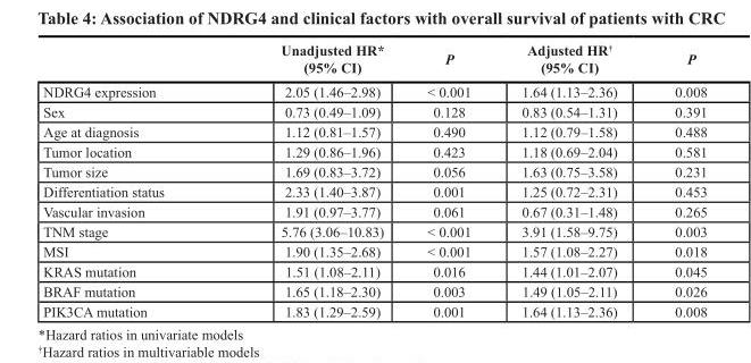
<table><thead><tr><td></td><td>Unadjusted HR* (95% CI)</td><td>P</td><td>Adjusted HR<sup>†</sup> (95% CI)</td><td>P</td></tr></thead><tbody><tr><td>NDRG4 expression</td><td>2.05 (1.46–2.98)</td><td>&lt; 0.001</td><td>1.64 (1.13–2.36)</td><td>0.008</td></tr><tr><td>Sex</td><td>0.73 (0.49–1.09)</td><td>0.128</td><td>0.83 (0.54–1.31)</td><td>0.391</td></tr><tr><td>Age at diagnosis</td><td>1.12 (0.81–1.57)</td><td>0.490</td><td>1.12 (0.79–1.58)</td><td>0.488</td></tr><tr><td>Tumor location</td><td>1.29 (0.86–1.96)</td><td>0.423</td><td>1.18 (0.69–2.04)</td><td>0.581</td></tr><tr><td>Tumor size</td><td>1.69 (0.83–3.72)</td><td>0.056</td><td>1.63 (0.75–3.58)</td><td>0.231</td></tr><tr><td>Differentiation status</td><td>2.33 (1.40–3.87)</td><td>0.001</td><td>1.25 (0.72–2.31)</td><td>0.453</td></tr><tr><td>Vascular invasion</td><td>1.91 (0.97–3.77)</td><td>0.061</td><td>0.67 (0.31–1.48)</td><td>0.265</td></tr><tr><td>TNM stage</td><td>5.76 (3.06–10.83)</td><td>&lt; 0.001</td><td>3.91 (1.58–9.75)</td><td>0.003</td></tr><tr><td>MSI</td><td>1.90 (1.35–2.68)</td><td>&lt; 0.001</td><td>1.57 (1.08–2.27)</td><td>0.018</td></tr><tr><td>KRAS mutation</td><td>1.51 (1.08–2.11)</td><td>0.016</td><td>1.44 (1.01–2.07)</td><td>0.045</td></tr><tr><td>BRAF mutation</td><td>1.65 (1.18–2.30)</td><td>0.003</td><td>1.49 (1.05–2.11)</td><td>0.026</td></tr><tr><td>PIK3CA mutation</td><td>1.83 (1.29–2.59)</td><td>0.001</td><td>1.64 (1.13–2.36)</td><td>0.008</td></tr></tbody></table>